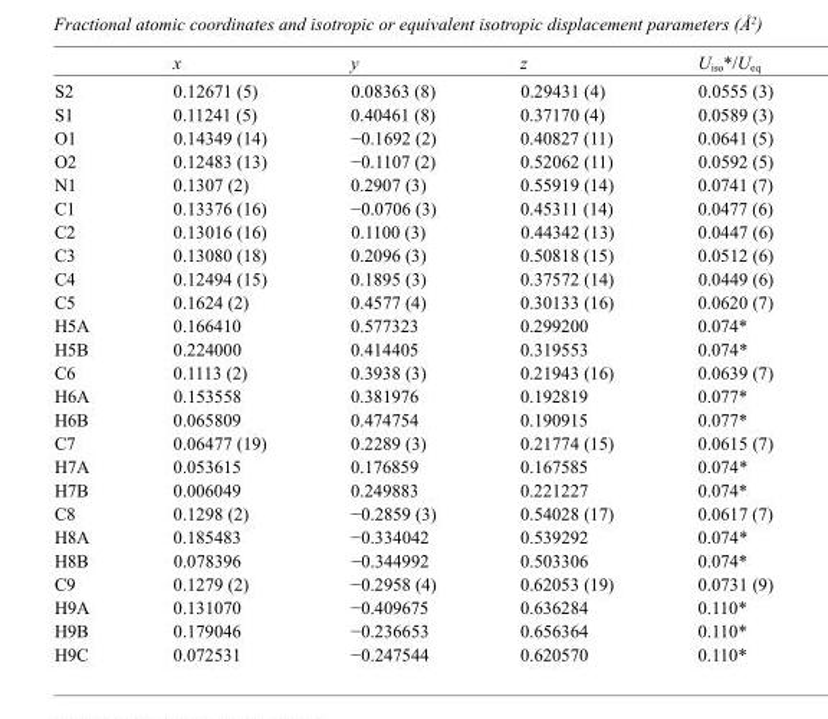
<table><thead><tr><td></td><td>x</td><td>y</td><td>z</td><td>U<sub>iso</sub>*/U<sub>eq</sub></td></tr></thead><tbody><tr><td>S2</td><td>0.12671 (5)</td><td>0.08363 (8)</td><td>0.29431 (4)</td><td>0.0555 (3)</td></tr><tr><td>S1</td><td>0.11241 (5)</td><td>0.40461 (8)</td><td>0.37170 (4)</td><td>0.0589 (3)</td></tr><tr><td>O1</td><td>0.14349 (14)</td><td>−0.1692 (2)</td><td>0.40827 (11)</td><td>0.0641 (5)</td></tr><tr><td>O2</td><td>0.12483 (13)</td><td>−0.1107 (2)</td><td>0.52062 (11)</td><td>0.0592 (5)</td></tr><tr><td>N1</td><td>0.1307 (2)</td><td>0.2907 (3)</td><td>0.55919 (14)</td><td>0.0741 (7)</td></tr><tr><td>C1</td><td>0.13376 (16)</td><td>−0.0706 (3)</td><td>0.45311 (14)</td><td>0.0477 (6)</td></tr><tr><td>C2</td><td>0.13016 (16)</td><td>0.1100 (3)</td><td>0.44342 (13)</td><td>0.0447 (6)</td></tr><tr><td>C3</td><td>0.13080 (18)</td><td>0.2096 (3)</td><td>0.50818 (15)</td><td>0.0512 (6)</td></tr><tr><td>C4</td><td>0.12494 (15)</td><td>0.1895 (3)</td><td>0.37572 (14)</td><td>0.0449 (6)</td></tr><tr><td>C5</td><td>0.1624 (2)</td><td>0.4577 (4)</td><td>0.30133 (16)</td><td>0.0620 (7)</td></tr><tr><td>H5A</td><td>0.166410</td><td>0.577323</td><td>0.299200</td><td>0.074*</td></tr><tr><td>H5B</td><td>0.224000</td><td>0.414405</td><td>0.319553</td><td>0.074*</td></tr><tr><td>C6</td><td>0.1113 (2)</td><td>0.3938 (3)</td><td>0.21943 (16)</td><td>0.0639 (7)</td></tr><tr><td>H6A</td><td>0.153558</td><td>0.381976</td><td>0.192819</td><td>0.077*</td></tr><tr><td>H6B</td><td>0.065809</td><td>0.474754</td><td>0.190915</td><td>0.077*</td></tr><tr><td>C7</td><td>0.06477 (19)</td><td>0.2289 (3)</td><td>0.21774 (15)</td><td>0.0615 (7)</td></tr><tr><td>H7A</td><td>0.053615</td><td>0.176859</td><td>0.167585</td><td>0.074*</td></tr><tr><td>H7B</td><td>0.006049</td><td>0.249883</td><td>0.221227</td><td>0.074*</td></tr><tr><td>C8</td><td>0.1298 (2)</td><td>−0.2859 (3)</td><td>0.54028 (17)</td><td>0.0617 (7)</td></tr><tr><td>H8A</td><td>0.185483</td><td>−0.334042</td><td>0.539292</td><td>0.074*</td></tr><tr><td>H8B</td><td>0.078396</td><td>−0.344992</td><td>0.503306</td><td>0.074*</td></tr><tr><td>C9</td><td>0.1279 (2)</td><td>−0.2958 (4)</td><td>0.62053 (19)</td><td>0.0731 (9)</td></tr><tr><td>H9A</td><td>0.131070</td><td>−0.409675</td><td>0.636284</td><td>0.110*</td></tr><tr><td>H9B</td><td>0.179046</td><td>−0.236653</td><td>0.656364</td><td>0.110*</td></tr><tr><td>H9C</td><td>0.072531</td><td>−0.247544</td><td>0.620570</td><td>0.110*</td></tr></tbody></table>